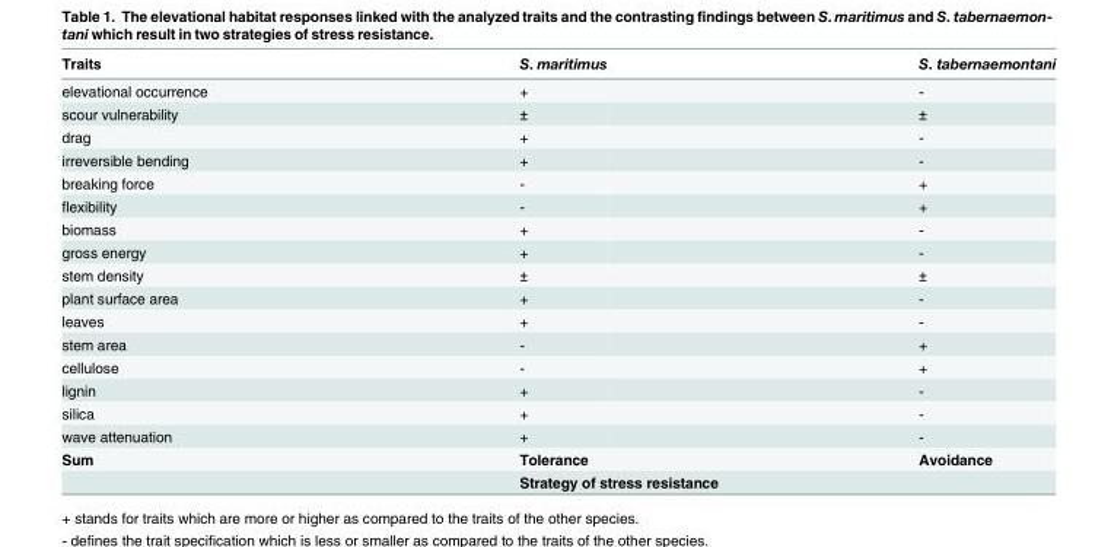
<table><thead><tr><td>Traits</td><td>S. maritimus</td><td>S. tabernaemontani</td></tr></thead><tbody><tr><td>elevational occurrence</td><td>+</td><td>-</td></tr><tr><td>scour vulnerability</td><td>±</td><td>±</td></tr><tr><td>drag</td><td>+</td><td>-</td></tr><tr><td>irreversible bending</td><td>+</td><td>-</td></tr><tr><td>breaking force</td><td>-</td><td>+</td></tr><tr><td>flexibility</td><td>-</td><td>+</td></tr><tr><td>biomass</td><td>+</td><td>-</td></tr><tr><td>gross energy</td><td>+</td><td>-</td></tr><tr><td>stem density</td><td>±</td><td>±</td></tr><tr><td>plant surface area</td><td>+</td><td>-</td></tr><tr><td>leaves</td><td>+</td><td>-</td></tr><tr><td>stem area</td><td>-</td><td>+</td></tr><tr><td>cellulose</td><td>-</td><td>+</td></tr><tr><td>lignin</td><td>+</td><td>-</td></tr><tr><td>silica</td><td>+</td><td>-</td></tr><tr><td>wave attenuation</td><td>+</td><td>-</td></tr><tr><td rowspan="2">Sum</td><td>Tolerance</td><td>Avoidance</td></tr><tr><td colspan="2">Strategy of stress resistance</td></tr></tbody></table>